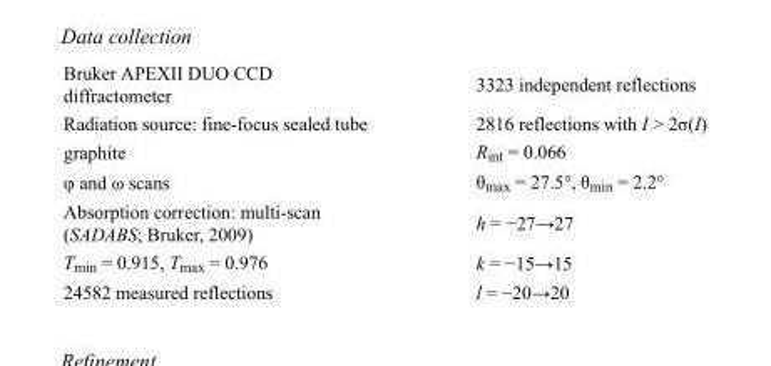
<table><tbody><tr><td>Bruker APEXII DUO CCD diffractometer</td><td>3323 independent reflections</td></tr><tr><td>Radiation source: fine-focus sealed tube</td><td>2816 reflections with I &gt; 2σ(I)</td></tr><tr><td>graphite</td><td>R<sub>int</sub> = 0.066</td></tr><tr><td>φ and ω scans</td><td>θ<sub>max</sub> = 27.5°, θ<sub>min</sub> = 2.2°</td></tr><tr><td>Absorption correction: multi-scan (SADABS; Bruker, 2009)</td><td>h = −27→27</td></tr><tr><td>T<sub>min</sub> = 0.915, T<sub>max</sub> = 0.976</td><td>k = −15→15</td></tr><tr><td>24582 measured reflections</td><td>l = −20→20</td></tr></tbody></table>